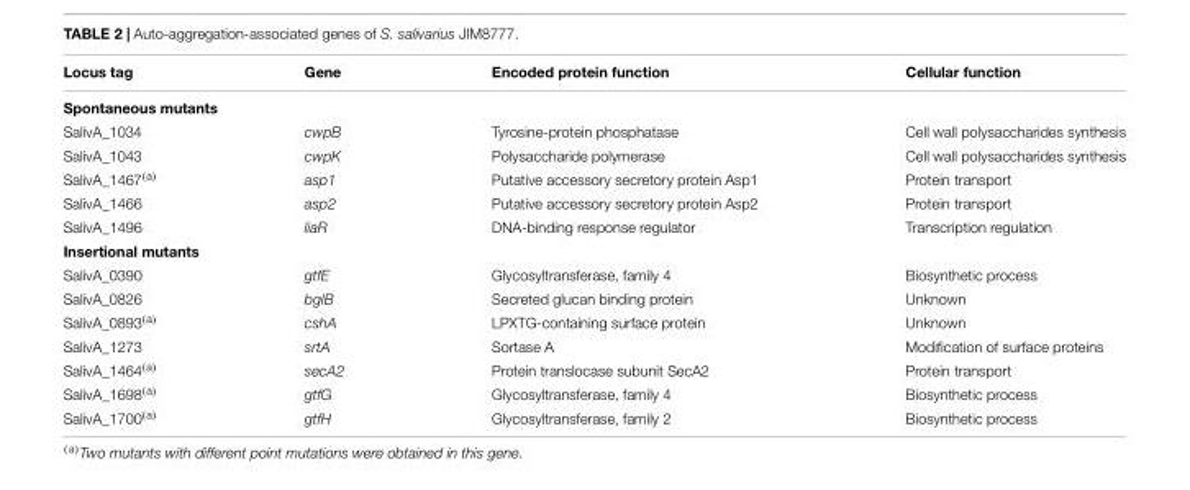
<table><thead><tr><td>Locus tag</td><td>Gene</td><td>Encoded protein function</td><td>Cellular function</td></tr></thead><tbody><tr><td colspan="4">Spontaneous mutants</td></tr><tr><td>SalivA_1034</td><td>cwpB</td><td>Tyrosine-protein phosphatase</td><td>Cell wall polysaccharides synthesis</td></tr><tr><td>SalivA_1043</td><td>cwpK</td><td>Polysaccharide polymerase</td><td>Cell wall polysaccharides synthesis</td></tr><tr><td>SalivA_1467<sup>(a)</sup></td><td>asp1</td><td>Putative accessory secretory protein Asp1</td><td>Protein transport</td></tr><tr><td>SalivA_1466</td><td>asp2</td><td>Putative accessory secretory protein Asp2</td><td>Protein transport</td></tr><tr><td>SalivA_1496</td><td>liaR</td><td>DNA-binding response regulator</td><td>Transcription regulation</td></tr><tr><td colspan="4">Insertional mutants</td></tr><tr><td>SalivA_0390</td><td>gtfE</td><td>Glycosyltransferase, family 4</td><td>Biosynthetic process</td></tr><tr><td>SalivA_0826</td><td>bglB</td><td>Secreted glucan binding protein</td><td>Unknown</td></tr><tr><td>SalivA_0893<sup>(a)</sup></td><td>cshA</td><td>LPXTG-containing surface protein</td><td>Unknown</td></tr><tr><td>SalivA_1273</td><td>srtA</td><td>Sortase A</td><td>Modification of surface proteins</td></tr><tr><td>SalivA_1464<sup>(a)</sup></td><td>secA2</td><td>Protein translocase subunit SecA2</td><td>Protein transport</td></tr><tr><td>SalivA_1698<sup>(a)</sup></td><td>gtfG</td><td>Glycosyltransferase, family 4</td><td>Biosynthetic process</td></tr><tr><td>SalivA_1700<sup>(a)</sup></td><td>gtfH</td><td>Glycosyltransferase, family 2</td><td>Biosynthetic process</td></tr></tbody></table>